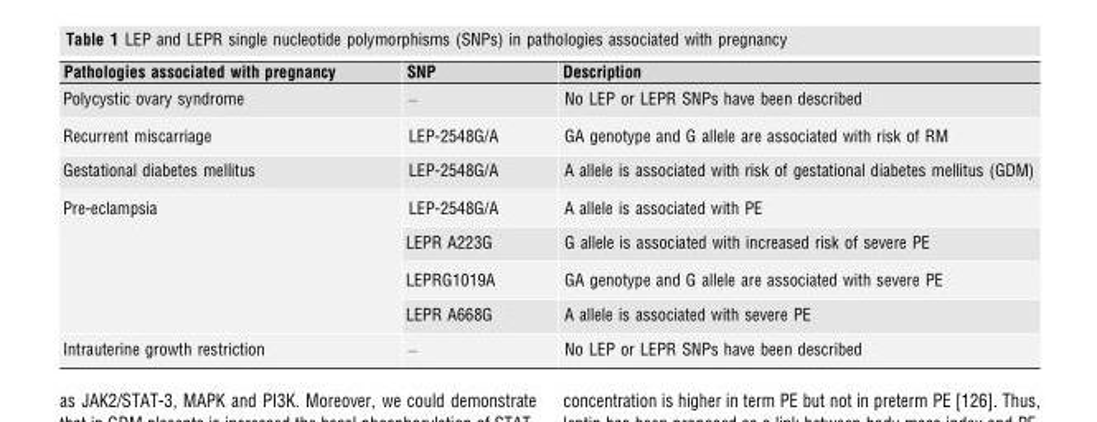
<table><thead><tr><td>Pathologies associated with pregnancy</td><td>SNP</td><td>Description</td></tr></thead><tbody><tr><td>Polycystic ovary syndrome</td><td>–</td><td>No LEP or LEPR SNPs have been described</td></tr><tr><td>Recurrent miscarriage</td><td>LEP-2548G/A</td><td>GA genotype and G allele are associated with risk of RM</td></tr><tr><td>Gestational diabetes mellitus</td><td>LEP-2548G/A</td><td>A allele is associated with risk of gestational diabetes mellitus (GDM)</td></tr><tr><td rowspan="4">Pre-eclampsia</td><td>LEP-2548G/A</td><td>A allele is associated with PE</td></tr><tr><td>LEPR A223G</td><td>G allele is associated with increased risk of severe PE</td></tr><tr><td>LEPRG1019A</td><td>GA genotype and G allele are associated with severe PE</td></tr><tr><td>LEPR A668G</td><td>A allele is associated with severe PE</td></tr><tr><td>Intrauterine growth restriction</td><td>–</td><td>No LEP or LEPR SNPs have been described</td></tr></tbody></table>